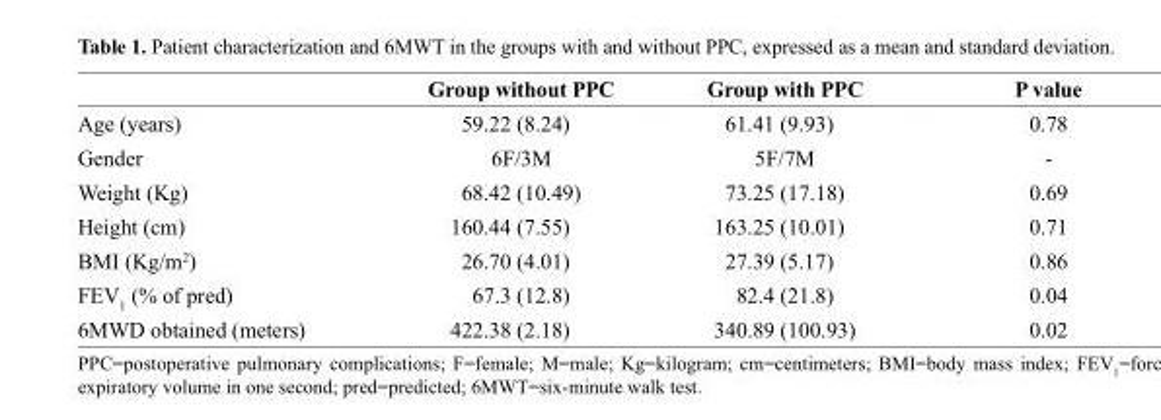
<table><thead><tr><td></td><td>Group without PPC</td><td>Group with PPC</td><td>P value</td></tr></thead><tbody><tr><td>Age (years)</td><td>59.22 (8.24)</td><td>61.41 (9.93)</td><td>0.78</td></tr><tr><td>Gender</td><td>6F/3M</td><td>5F/7M</td><td>-</td></tr><tr><td>Weight (Kg)</td><td>68.42 (10.49)</td><td>73.25 (17.18)</td><td>0.69</td></tr><tr><td>Height (cm)</td><td>160.44 (7.55)</td><td>163.25 (10.01)</td><td>0.71</td></tr><tr><td>BMI (Kg/m<sup>2</sup>)</td><td>26.70 (4.01)</td><td>27.39 (5.17)</td><td>0.86</td></tr><tr><td>FEV<sub>1</sub> (% of pred)</td><td>67.3 (12.8)</td><td>82.4 (21.8)</td><td>0.04</td></tr><tr><td>6MWD obtained (meters)</td><td>422.38 (2.18)</td><td>340.89 (100.93)</td><td>0.02</td></tr></tbody></table>